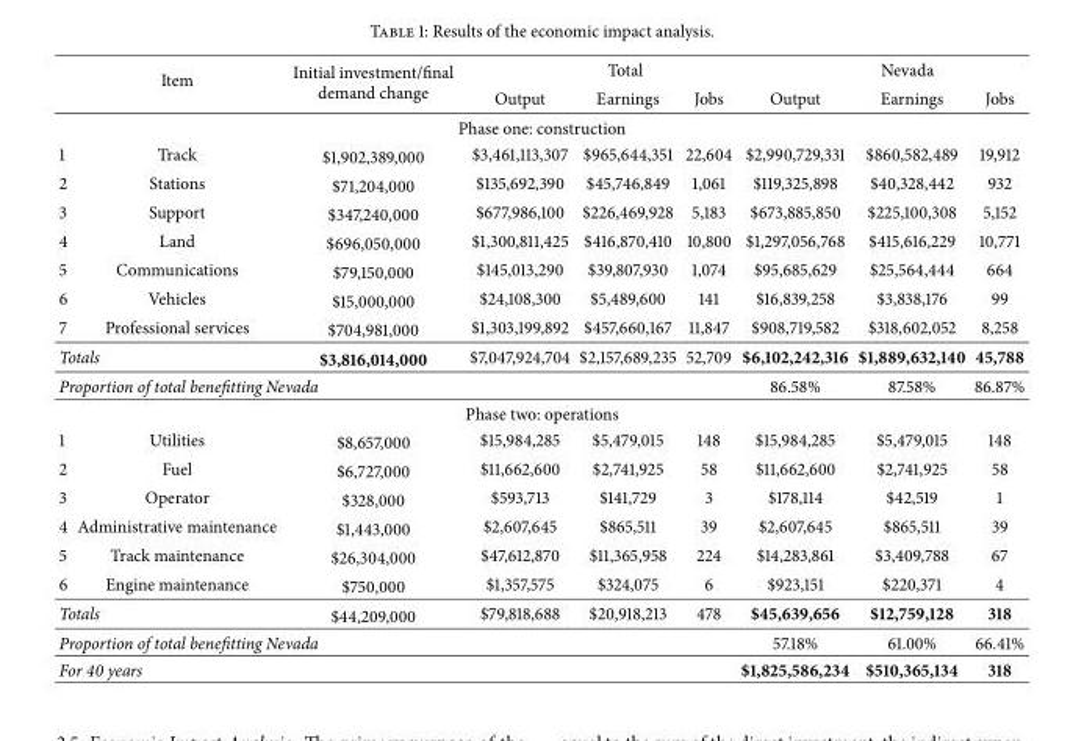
<table><thead><tr><td rowspan="2"></td><td rowspan="2">Item</td><td rowspan="2">Initial investment/final demand change</td><td colspan="3">Total</td><td colspan="3">Nevada</td></tr><tr><td>Output</td><td>Earnings</td><td>Jobs</td><td>Output</td><td>Earnings</td><td>Jobs</td></tr></thead><tbody><tr><td colspan="9">Phase one: construction</td></tr><tr><td>1</td><td>Track</td><td>$1,902,389,000</td><td>$3,461,113,307</td><td>$965,644,351</td><td>22,604</td><td>$2,990,729,331</td><td>$860,582,489</td><td>19,912</td></tr><tr><td>2</td><td>Stations</td><td>$71,204,000</td><td>$135,692,390</td><td>$45,746,849</td><td>1,061</td><td>$119,325,898</td><td>$40,328,442</td><td>932</td></tr><tr><td>3</td><td>Support</td><td>$347,240,000</td><td>$677,986,100</td><td>$226,469,928</td><td>5,183</td><td>$673,885,850</td><td>$225,100,308</td><td>5,152</td></tr><tr><td>4</td><td>Land</td><td>$696,050,000</td><td>$1,300,811,425</td><td>$416,870,410</td><td>10,800</td><td>$1,297,056,768</td><td>$415,616,229</td><td>10,771</td></tr><tr><td>5</td><td>Communications</td><td>$79,150,000</td><td>$145,013,290</td><td>$39,807,930</td><td>1,074</td><td>$95,685,629</td><td>$25,564,444</td><td>664</td></tr><tr><td>6</td><td>Vehicles</td><td>$15,000,000</td><td>$24,108,300</td><td>$5,489,600</td><td>141</td><td>$16,839,258</td><td>$3,838,176</td><td>99</td></tr><tr><td>7</td><td>Professional services</td><td>$704,981,000</td><td>$1,303,199,892</td><td>$457,660,167</td><td>11,847</td><td>$908,719,582</td><td>$318,602,052</td><td>8,258</td></tr><tr><td colspan="2">Totals</td><td>$3,816,014,000</td><td>$7,047,924,704</td><td>$2,157,689,235</td><td>52,709</td><td>$6,102,242,316</td><td>$1,889,632,140</td><td>45,788</td></tr><tr><td colspan="6">Proportion of total benefitting Nevada</td><td>86.58%</td><td>87.58%</td><td>86.87%</td></tr><tr><td colspan="9">Phase two: operations</td></tr><tr><td>1</td><td>Utilities</td><td>$8,657,000</td><td>$15,984,285</td><td>$5,479,015</td><td>148</td><td>$15,984,285</td><td>$5,479,015</td><td>148</td></tr><tr><td>2</td><td>Fuel</td><td>$6,727,000</td><td>$11,662,600</td><td>$2,741,925</td><td>58</td><td>$11,662,600</td><td>$2,741,925</td><td>58</td></tr><tr><td>3</td><td>Operator</td><td>$328,000</td><td>$593,713</td><td>$141,729</td><td>3</td><td>$178,114</td><td>$42,519</td><td>1</td></tr><tr><td>4</td><td>Administrative maintenance</td><td>$1,443,000</td><td>$2,607,645</td><td>$865,511</td><td>39</td><td>$2,607,645</td><td>$865,511</td><td>39</td></tr><tr><td>5</td><td>Track maintenance</td><td>$26,304,000</td><td>$47,612,870</td><td>$11,365,958</td><td>224</td><td>$14,283,861</td><td>$3,409,788</td><td>67</td></tr><tr><td>6</td><td>Engine maintenance</td><td>$750,000</td><td>$1,357,575</td><td>$324,075</td><td>6</td><td>$923,151</td><td>$220,371</td><td>4</td></tr><tr><td colspan="2">Totals</td><td>$44,209,000</td><td>$79,818,688</td><td>$20,918,213</td><td>478</td><td>$45,639,656</td><td>$12,759,128</td><td>318</td></tr><tr><td colspan="6">Proportion of total benefitting Nevada</td><td>57.18%</td><td>61.00%</td><td>66.41%</td></tr><tr><td colspan="6">For 40 years</td><td>$1,825,586,234</td><td>$510,365,134</td><td>318</td></tr></tbody></table>